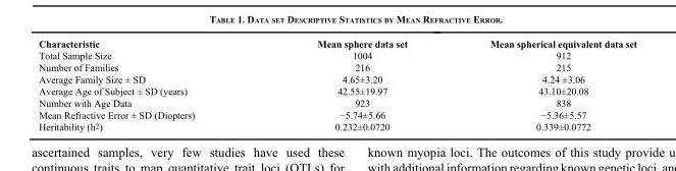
<table><thead><tr><td>Characteristic</td><td>Mean sphere data set</td><td>Mean spherical equivalent data set</td></tr></thead><tbody><tr><td>Total Sample Size</td><td>1004</td><td>912</td></tr><tr><td>Number of Families</td><td>216</td><td>215</td></tr><tr><td>Average Family Size ± SD</td><td>4.65±3.20</td><td>4.24 ±3.06</td></tr><tr><td>Average Age of Subject ± SD (years)</td><td>42.55±19.97</td><td>43.10±20.08</td></tr><tr><td>Number with Age Data</td><td>923</td><td>838</td></tr><tr><td>Mean Refractive Error ± SD (Diopters)</td><td>−5.74±5.66</td><td>−5.36±5.57</td></tr><tr><td>Heritability (h<sup>2</sup>)</td><td>0.232±0.0720</td><td>0.339±0.0772</td></tr></tbody></table>